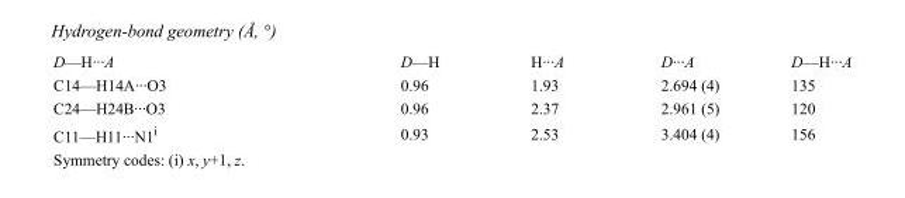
<table><tbody><tr><td>D—H···A</td><td>D—H</td><td>H···A</td><td>D···A</td><td>D—H···A</td></tr><tr><td>C14—H14A···O3</td><td>0.96</td><td>1.93</td><td>2.694 (4)</td><td>135</td></tr><tr><td>C24—H24B···O3</td><td>0.96</td><td>2.37</td><td>2.961 (5)</td><td>120</td></tr><tr><td>C11—H11···N1<sup>i</sup></td><td>0.93</td><td>2.53</td><td>3.404 (4)</td><td>156</td></tr></tbody></table>